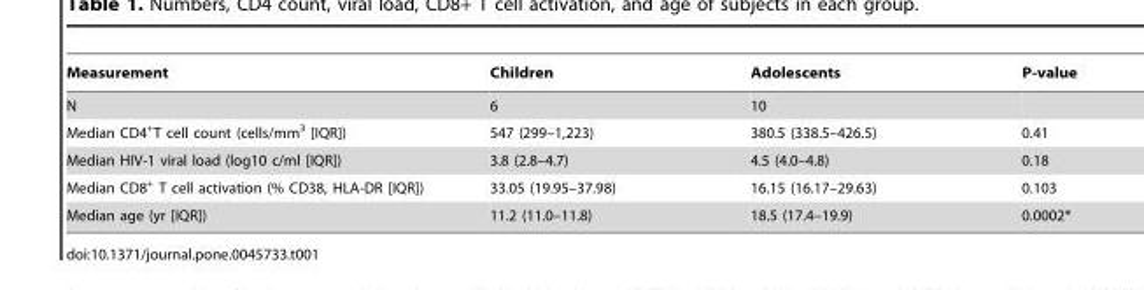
<table><thead><tr><td>Measurement</td><td>Children</td><td>Adolescents</td><td>P-value</td></tr></thead><tbody><tr><td>N</td><td>6</td><td>10</td><td></td></tr><tr><td>Median CD4<sup>+</sup>T cell count (cells/mm<sup>3</sup> [IQR])</td><td>547 (299–1,223)</td><td>380.5 (338.5–426.5)</td><td>0.41</td></tr><tr><td>Median HIV-1 viral load (log10 c/ml [IQR])</td><td>3.8 (2.8–4.7)</td><td>4.5 (4.0–4.8)</td><td>0.18</td></tr><tr><td>Median CD8<sup>+</sup> T cell activation (% CD38, HLA-DR [IQR])</td><td>33.05 (19.95–37.98)</td><td>16.15 (16.17–29.63)</td><td>0.103</td></tr><tr><td>Median age (yr [IQR])</td><td>11.2 (11.0–11.8)</td><td>18.5 (17.4–19.9)</td><td>0.0002*</td></tr></tbody></table>